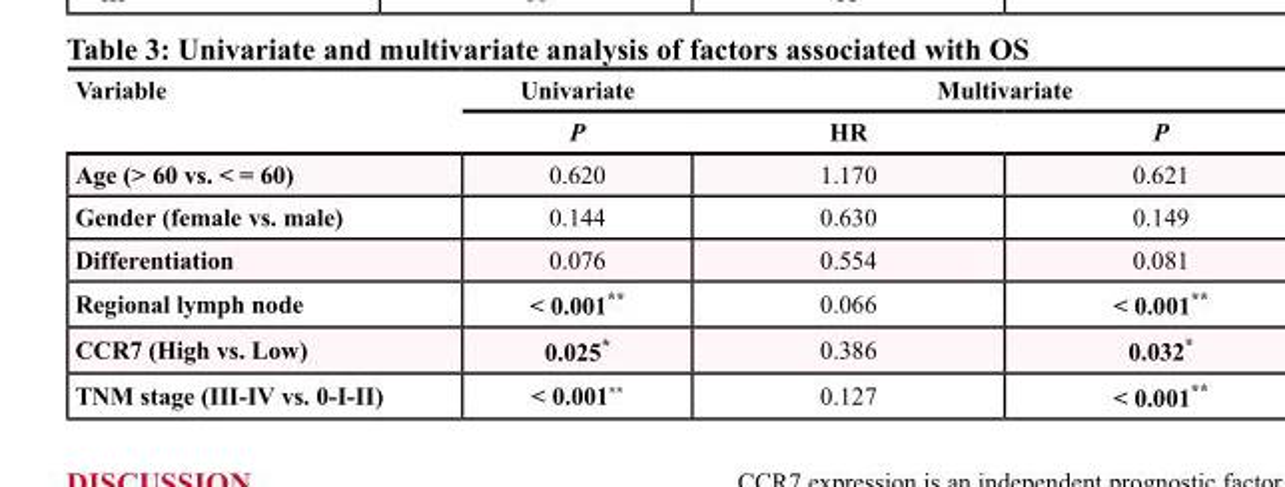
<table><thead><tr><td rowspan="2">Variable</td><td rowspan="2">Univariate P</td><td colspan="2">Multivariate</td></tr><tr><td>HR</td><td>P</td></tr></thead><tbody><tr><td>Age (&gt; 60 vs. &lt; = 60)</td><td>0.620</td><td>1.170</td><td>0.621</td></tr><tr><td>Gender (female vs. male)</td><td>0.144</td><td>0.630</td><td>0.149</td></tr><tr><td>Differentiation</td><td>0.076</td><td>0.554</td><td>0.081</td></tr><tr><td>Regional lymph node</td><td>&lt; 0.001**</td><td>0.066</td><td>&lt; 0.001**</td></tr><tr><td>CCR7 (High vs. Low)</td><td>0.025*</td><td>0.386</td><td>0.032*</td></tr><tr><td>TNM stage (III-IV vs. 0-I-II)</td><td>&lt; 0.001**</td><td>0.127</td><td>&lt; 0.001**</td></tr></tbody></table>